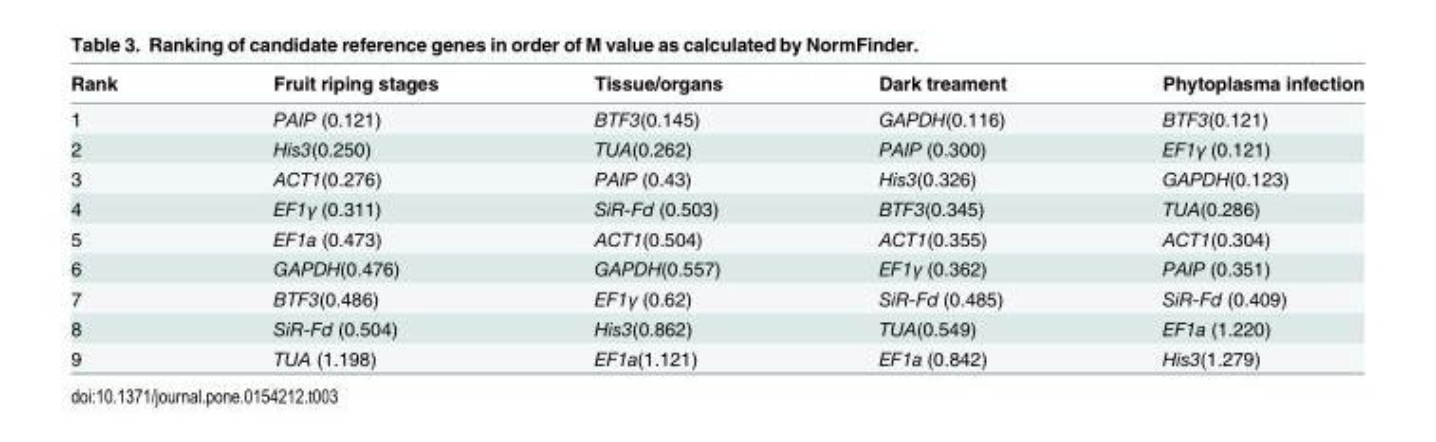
<table><thead><tr><td>Rank</td><td>Fruit riping stages</td><td>Tissue/organs</td><td>Dark treament</td><td>Phytoplasma infection</td></tr></thead><tbody><tr><td>1</td><td>PAIP (0.121)</td><td>BTF3(0.145)</td><td>GAPDH(0.116)</td><td>BTF3(0.121)</td></tr><tr><td>2</td><td>His3(0.250)</td><td>TUA(0.262)</td><td>PAIP (0.300)</td><td>EF1γ (0.121)</td></tr><tr><td>3</td><td>ACT1(0.276)</td><td>PAIP (0.43)</td><td>His3(0.326)</td><td>GAPDH(0.123)</td></tr><tr><td>4</td><td>EF1γ (0.311)</td><td>SiR-Fd (0.503)</td><td>BTF3(0.345)</td><td>TUA(0.286)</td></tr><tr><td>5</td><td>EF1a (0.473)</td><td>ACT1(0.504)</td><td>ACT1(0.355)</td><td>ACT1(0.304)</td></tr><tr><td>6</td><td>GAPDH(0.476)</td><td>GAPDH(0.557)</td><td>EF1γ (0.362)</td><td>PAIP (0.351)</td></tr><tr><td>7</td><td>BTF3(0.486)</td><td>EF1γ (0.62)</td><td>SiR-Fd (0.485)</td><td>SiR-Fd (0.409)</td></tr><tr><td>8</td><td>SiR-Fd (0.504)</td><td>His3(0.862)</td><td>TUA(0.549)</td><td>EF1a (1.220)</td></tr><tr><td>9</td><td>TUA (1.198)</td><td>EF1a(1.121)</td><td>EF1a (0.842)</td><td>His3(1.279)</td></tr></tbody></table>